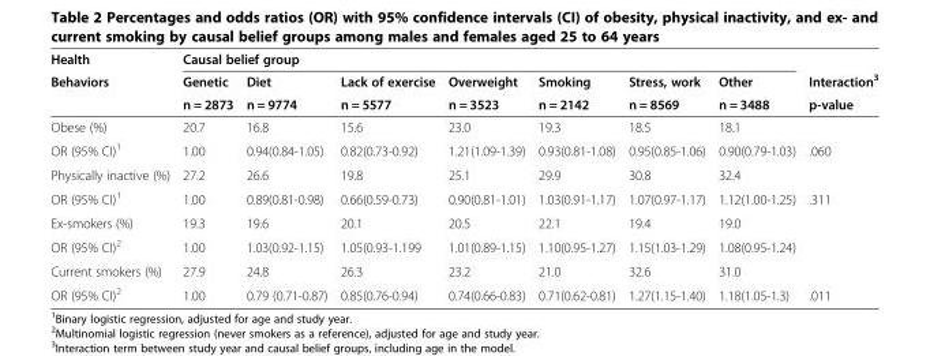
<table><thead><tr><td rowspan="3">Health Behaviors</td><td colspan="7">Causal belief group</td><td rowspan="3">Interaction<sup>3</sup> p-value</td></tr><tr><td rowspan="2">Genetic n = 2873</td><td rowspan="2">Diet n = 9774</td><td rowspan="2">Lack of exercise n = 5577</td><td rowspan="2">Overweight n = 3523</td><td rowspan="2">Smoking n = 2142</td><td rowspan="2">Stress, work n = 8569</td><td rowspan="2">Other n = 3488</td></tr><tr></tr></thead><tbody><tr><td>Obese (%)</td><td>20.7</td><td>16.8</td><td>15.6</td><td>23.0</td><td>19.3</td><td>18.5</td><td>18.1</td><td></td></tr><tr><td>OR (95% CI)<sup>1</sup></td><td>1.00</td><td>0.94(0.84-1.05)</td><td>0.82(0.73-0.92)</td><td>1.21(1.09-1.39)</td><td>0.93(0.81-1.08)</td><td>0.95(0.85-1.06)</td><td>0.90(0.79-1.03)</td><td>.060</td></tr><tr><td>Physically inactive (%)</td><td>27.2</td><td>26.6</td><td>19.8</td><td>25.1</td><td>29.9</td><td>30.8</td><td>32.4</td><td></td></tr><tr><td>OR (95% CI)<sup>1</sup></td><td>1.00</td><td>0.89(0.81-0.98)</td><td>0.66(0.59-0.73)</td><td>0.90(0.81-1.01)</td><td>1.03(0.91-1.17)</td><td>1.07(0.97-1.17)</td><td>1.12(1.00-1.25)</td><td>.311</td></tr><tr><td>Ex-smokers (%)</td><td>19.3</td><td>19.6</td><td>20.1</td><td>20.5</td><td>22.1</td><td>19.4</td><td>19.0</td><td></td></tr><tr><td>OR (95% CI)<sup>2</sup></td><td>1.00</td><td>1.03(0.92-1.15)</td><td>1.05(0.93-1.199</td><td>1.01(0.89-1.15)</td><td>1.10(0.95-1.27)</td><td>1.15(1.03-1.29)</td><td>1.08(0.95-1.24)</td><td></td></tr><tr><td>Current smokers (%)</td><td>27.9</td><td>24.8</td><td>26.3</td><td>23.2</td><td>21.0</td><td>32.6</td><td>31.0</td><td></td></tr><tr><td>OR (95% CI)<sup>2</sup></td><td>1.00</td><td>0.79 (0.71-0.87)</td><td>0.85(0.76-0.94)</td><td>0.74(0.66-0.83)</td><td>0.71(0.62-0.81)</td><td>1.27(1.15-1.40)</td><td>1.18(1.05-1.3)</td><td>.011</td></tr></tbody></table>